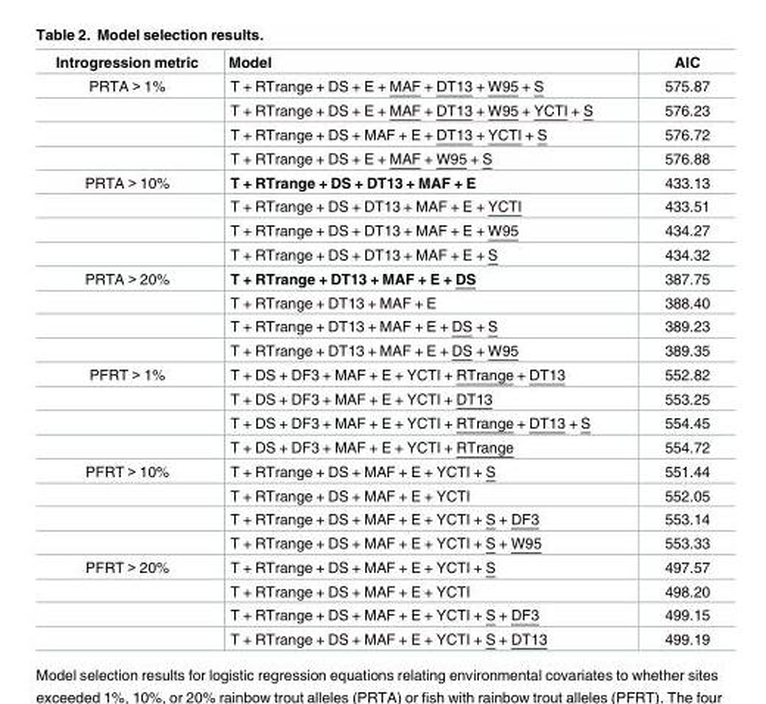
<table><thead><tr><td>Introgression metric</td><td>Model</td><td>AIC</td></tr></thead><tbody><tr><td rowspan="4">PRTA &gt; 1%</td><td>T + RTrange + DS + E + MAF + DT13 + W95 + S</td><td>575.87</td></tr><tr><td>T + RTrange + DS + E + MAF + DT13 + W95 + YCTI + S</td><td>576.23</td></tr><tr><td>T + RTrange + DS + MAF + E + DT13 + YCTI + S</td><td>576.72</td></tr><tr><td>T + RTrange + DS + E + MAF + W95 + S</td><td>576.88</td></tr><tr><td rowspan="4">PRTA &gt; 10%</td><td>T + RTrange + DS + DT13 + MAF + E</td><td>433.13</td></tr><tr><td>T + RTrange + DS + DT13 + MAF + E + YCTI</td><td>433.51</td></tr><tr><td>T + RTrange + DS + DT13 + MAF + E + W95</td><td>434.27</td></tr><tr><td>T + RTrange + DS + DT13 + MAF + E + S</td><td>434.32</td></tr><tr><td rowspan="4">PRTA &gt; 20%</td><td>T + RTrange + DT13 + MAF + E + DS</td><td>387.75</td></tr><tr><td>T + RTrange + DT13 + MAF + E</td><td>388.40</td></tr><tr><td>T + RTrange + DT13 + MAF + E + DS + S</td><td>389.23</td></tr><tr><td>T + RTrange + DT13 + MAF + E + DS + W95</td><td>389.35</td></tr><tr><td rowspan="4">PFRT &gt; 1%</td><td>T + DS + DF3 + MAF + E + YCTI + RTrange + DT13</td><td>552.82</td></tr><tr><td>T + DS + DF3 + MAF + E + YCTI + DT13</td><td>553.25</td></tr><tr><td>T + DS + DF3 + MAF + E + YCTI + RTrange + DT13 + S</td><td>554.45</td></tr><tr><td>T + DS + DF3 + MAF + E + YCTI + RTrange</td><td>554.72</td></tr><tr><td rowspan="4">PFRT &gt; 10%</td><td>T + RTrange + DS + MAF + E + YCTI + S</td><td>551.44</td></tr><tr><td>T + RTrange + DS + MAF + E + YCTI</td><td>552.05</td></tr><tr><td>T + RTrange + DS + MAF + E + YCTI + S + DF3</td><td>553.14</td></tr><tr><td>T + RTrange + DS + MAF + E + YCTI + S + W95</td><td>553.33</td></tr><tr><td rowspan="4">PFRT &gt; 20%</td><td>T + RTrange + DS + MAF + E + YCTI + S</td><td>497.57</td></tr><tr><td>T + RTrange + DS + MAF + E + YCTI</td><td>498.20</td></tr><tr><td>T + RTrange + DS + MAF + E + YCTI + S + DF3</td><td>499.15</td></tr><tr><td>T + RTrange + DS + MAF + E + YCTI + S + DT13</td><td>499.19</td></tr></tbody></table>